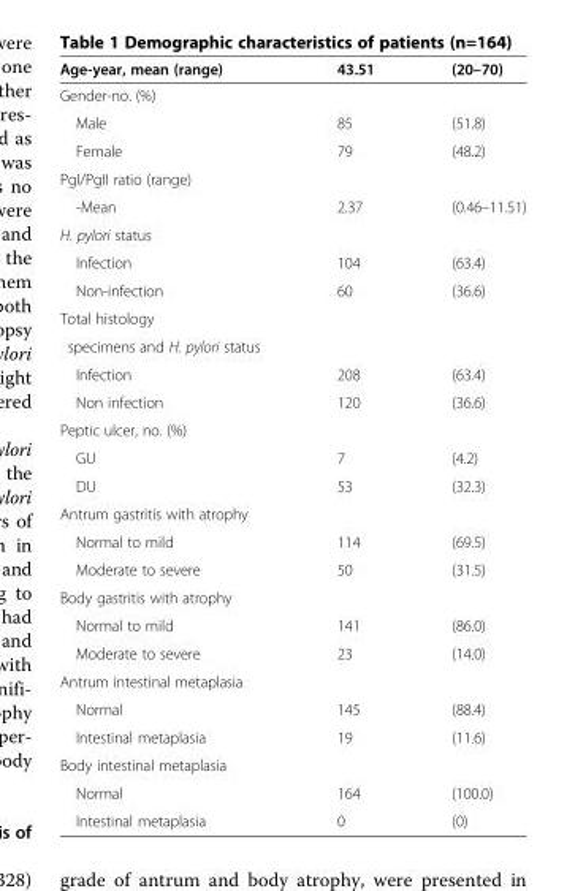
<table><thead><tr><td>Age-year, mean (range)</td><td>43.51</td><td>(20–70)</td></tr></thead><tbody><tr><td colspan="3">Gender-no. (%)</td></tr><tr><td>Male</td><td>85</td><td>(51.8)</td></tr><tr><td>Female</td><td>79</td><td>(48.2)</td></tr><tr><td colspan="3">PgI/PgII ratio (range)</td></tr><tr><td>-Mean</td><td>2.37</td><td>(0.46–11.51)</td></tr><tr><td colspan="3">H. pylori status</td></tr><tr><td>Infection</td><td>104</td><td>(63.4)</td></tr><tr><td>Non-infection</td><td>60</td><td>(36.6)</td></tr><tr><td colspan="3">Total histology</td></tr><tr><td colspan="3">specimens and H. pylori status</td></tr><tr><td>Infection</td><td>208</td><td>(63.4)</td></tr><tr><td>Non infection</td><td>120</td><td>(36.6)</td></tr><tr><td colspan="3">Peptic ulcer, no. (%)</td></tr><tr><td>GU</td><td>7</td><td>(4.2)</td></tr><tr><td>DU</td><td>53</td><td>(32.3)</td></tr><tr><td colspan="3">Antrum gastritis with atrophy</td></tr><tr><td>Normal to mild</td><td>114</td><td>(69.5)</td></tr><tr><td>Moderate to severe</td><td>50</td><td>(31.5)</td></tr><tr><td colspan="3">Body gastritis with atrophy</td></tr><tr><td>Normal to mild</td><td>141</td><td>(86.0)</td></tr><tr><td>Moderate to severe</td><td>23</td><td>(14.0)</td></tr><tr><td colspan="3">Antrum intestinal metaplasia</td></tr><tr><td>Normal</td><td>145</td><td>(88.4)</td></tr><tr><td>Intestinal metaplasia</td><td>19</td><td>(11.6)</td></tr><tr><td colspan="3">Body intestinal metaplasia</td></tr><tr><td>Normal</td><td>164</td><td>(100.0)</td></tr><tr><td>Intestinal metaplasia</td><td>0</td><td>(0)</td></tr></tbody></table>